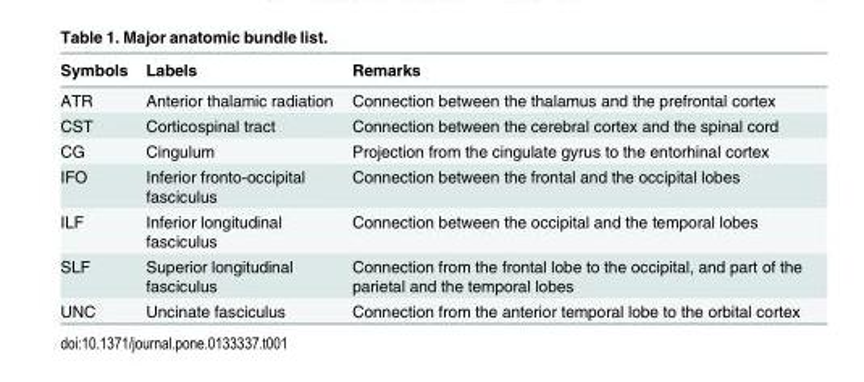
<table><thead><tr><td>Symbols</td><td>Labels</td><td>Remarks</td></tr></thead><tbody><tr><td>ATR</td><td>Anterior thalamic radiation</td><td>Connection between the thalamus and the prefrontal cortex</td></tr><tr><td>CST</td><td>Corticospinal tract</td><td>Connection between the cerebral cortex and the spinal cord</td></tr><tr><td>CG</td><td>Cingulum</td><td>Projection from the cingulate gyrus to the entorhinal cortex</td></tr><tr><td>IFO</td><td>Inferior fronto-occipital fasciculus</td><td>Connection between the frontal and the occipital lobes</td></tr><tr><td>ILF</td><td>Inferior longitudinal fasciculus</td><td>Connection between the occipital and the temporal lobes</td></tr><tr><td>SLF</td><td>Superior longitudinal fasciculus</td><td>Connection from the frontal lobe to the occipital, and part of the parietal and the temporal lobes</td></tr><tr><td>UNC</td><td>Uncinate fasciculus</td><td>Connection from the anterior temporal lobe to the orbital cortex</td></tr></tbody></table>